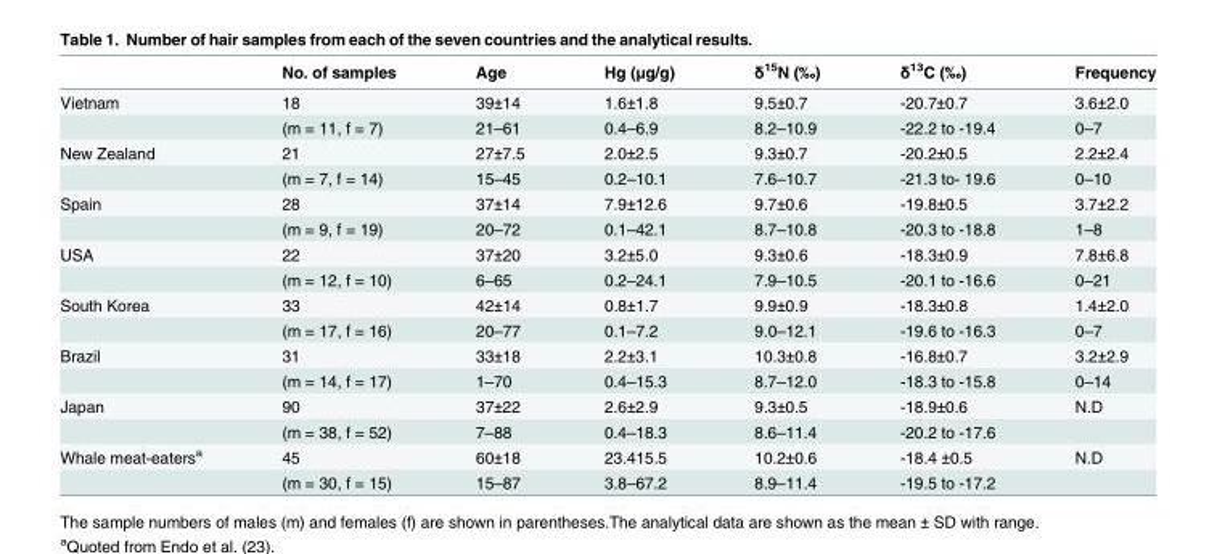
<table><thead><tr><td></td><td>No. of samples</td><td>Age</td><td>Hg (μg/g)</td><td>δ<sup>15</sup>N (‰)</td><td>δ<sup>13</sup>C (‰)</td><td>Frequency</td></tr></thead><tbody><tr><td rowspan="2">Vietnam</td><td>18</td><td>39±14</td><td>1.6±1.8</td><td>9.5±0.7</td><td>-20.7±0.7</td><td>3.6±2.0</td></tr><tr><td>(m = 11, f = 7)</td><td>21–61</td><td>0.4–6.9</td><td>8.2–10.9</td><td>-22.2 to -19.4</td><td>0–7</td></tr><tr><td rowspan="2">New Zealand</td><td>21</td><td>27±7.5</td><td>2.0±2.5</td><td>9.3±0.7</td><td>-20.2±0.5</td><td>2.2±2.4</td></tr><tr><td>(m = 7, f = 14)</td><td>15–45</td><td>0.2–10.1</td><td>7.6–10.7</td><td>-21.3 to- 19.6</td><td>0–10</td></tr><tr><td rowspan="2">Spain</td><td>28</td><td>37±14</td><td>7.9±12.6</td><td>9.7±0.6</td><td>-19.8±0.5</td><td>3.7±2.2</td></tr><tr><td>(m = 9, f = 19)</td><td>20–72</td><td>0.1–42.1</td><td>8.7–10.8</td><td>-20.3 to -18.8</td><td>1–8</td></tr><tr><td rowspan="2">USA</td><td>22</td><td>37±20</td><td>3.2±5.0</td><td>9.3±0.6</td><td>-18.3±0.9</td><td>7.8±6.8</td></tr><tr><td>(m = 12, f = 10)</td><td>6–65</td><td>0.2–24.1</td><td>7.9–10.5</td><td>-20.1 to -16.6</td><td>0–21</td></tr><tr><td rowspan="2">South Korea</td><td>33</td><td>42±14</td><td>0.8±1.7</td><td>9.9±0.9</td><td>-18.3±0.8</td><td>1.4±2.0</td></tr><tr><td>(m = 17, f = 16)</td><td>20–77</td><td>0.1–7.2</td><td>9.0–12.1</td><td>-19.6 to -16.3</td><td>0–7</td></tr><tr><td rowspan="2">Brazil</td><td>31</td><td>33±18</td><td>2.2±3.1</td><td>10.3±0.8</td><td>-16.8±0.7</td><td>3.2±2.9</td></tr><tr><td>(m = 14, f = 17)</td><td>1–70</td><td>0.4–15.3</td><td>8.7–12.0</td><td>-18.3 to -15.8</td><td>0–14</td></tr><tr><td rowspan="2">Japan</td><td>90</td><td>37±22</td><td>2.6±2.9</td><td>9.3±0.5</td><td>-18.9±0.6</td><td>N.D</td></tr><tr><td>(m = 38, f = 52)</td><td>7–88</td><td>0.4–18.3</td><td>8.6–11.4</td><td>-20.2 to -17.6</td><td></td></tr><tr><td rowspan="2">Whale meat-eaters<sup>a</sup></td><td>45</td><td>60±18</td><td>23.415.5</td><td>10.2±0.6</td><td>-18.4 ±0.5</td><td>N.D</td></tr><tr><td>(m = 30, f = 15)</td><td>15–87</td><td>3.8–67.2</td><td>8.9–11.4</td><td>-19.5 to -17.2</td><td></td></tr></tbody></table>